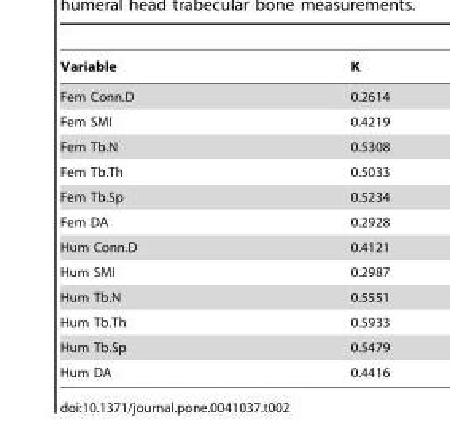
<table><thead><tr><td>Variable</td><td>K</td></tr></thead><tbody><tr><td>Fem Conn.D</td><td>0.2614</td></tr><tr><td>Fem SMI</td><td>0.4219</td></tr><tr><td>Fem Tb.N</td><td>0.5308</td></tr><tr><td>Fem Tb.Th</td><td>0.5033</td></tr><tr><td>Fem Tb.Sp</td><td>0.5234</td></tr><tr><td>Fem DA</td><td>0.2928</td></tr><tr><td>Hum Conn.D</td><td>0.4121</td></tr><tr><td>Hum SMI</td><td>0.2987</td></tr><tr><td>Hum Tb.N</td><td>0.5551</td></tr><tr><td>Hum Tb.Th</td><td>0.5933</td></tr><tr><td>Hum Tb.Sp</td><td>0.5479</td></tr><tr><td>Hum DA</td><td>0.4416</td></tr></tbody></table>